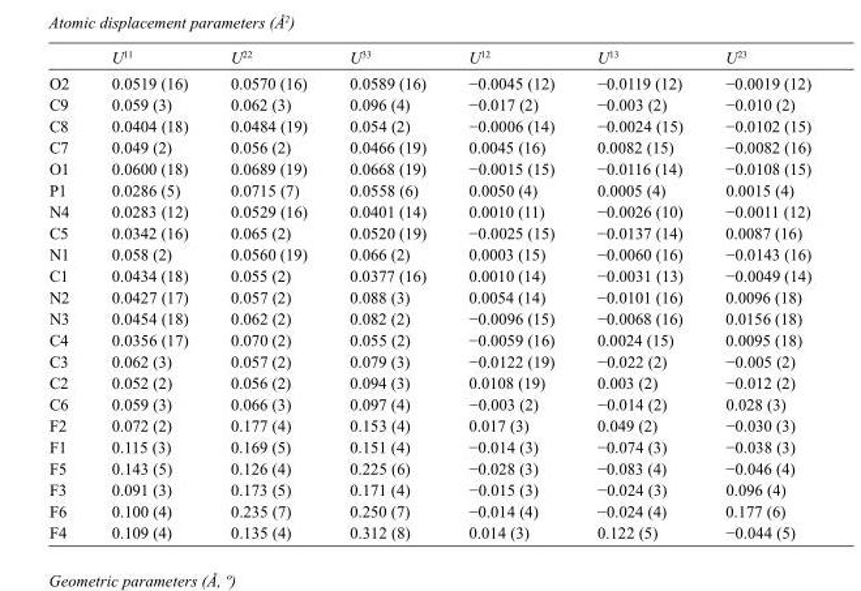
<table><thead><tr><td></td><td>U<sup>11</sup></td><td>U<sup>22</sup></td><td>U<sup>33</sup></td><td>U<sup>12</sup></td><td>U<sup>13</sup></td><td>U<sup>23</sup></td></tr></thead><tbody><tr><td>O2</td><td>0.0519 (16)</td><td>0.0570 (16)</td><td>0.0589 (16)</td><td>−0.0045 (12)</td><td>−0.0119 (12)</td><td>−0.0019 (12)</td></tr><tr><td>C9</td><td>0.059 (3)</td><td>0.062 (3)</td><td>0.096 (4)</td><td>−0.017 (2)</td><td>−0.003 (2)</td><td>−0.010 (2)</td></tr><tr><td>C8</td><td>0.0404 (18)</td><td>0.0484 (19)</td><td>0.054 (2)</td><td>−0.0006 (14)</td><td>−0.0024 (15)</td><td>−0.0102 (15)</td></tr><tr><td>C7</td><td>0.049 (2)</td><td>0.056 (2)</td><td>0.0466 (19)</td><td>0.0045 (16)</td><td>0.0082 (15)</td><td>−0.0082 (16)</td></tr><tr><td>O1</td><td>0.0600 (18)</td><td>0.0689 (19)</td><td>0.0668 (19)</td><td>−0.0015 (15)</td><td>−0.0116 (14)</td><td>−0.0108 (15)</td></tr><tr><td>P1</td><td>0.0286 (5)</td><td>0.0715 (7)</td><td>0.0558 (6)</td><td>0.0050 (4)</td><td>0.0005 (4)</td><td>0.0015 (4)</td></tr><tr><td>N4</td><td>0.0283 (12)</td><td>0.0529 (16)</td><td>0.0401 (14)</td><td>0.0010 (11)</td><td>−0.0026 (10)</td><td>−0.0011 (12)</td></tr><tr><td>C5</td><td>0.0342 (16)</td><td>0.065 (2)</td><td>0.0520 (19)</td><td>−0.0025 (15)</td><td>−0.0137 (14)</td><td>0.0087 (16)</td></tr><tr><td>N1</td><td>0.058 (2)</td><td>0.0560 (19)</td><td>0.066 (2)</td><td>0.0003 (15)</td><td>−0.0060 (16)</td><td>−0.0143 (16)</td></tr><tr><td>C1</td><td>0.0434 (18)</td><td>0.055 (2)</td><td>0.0377 (16)</td><td>0.0010 (14)</td><td>−0.0031 (13)</td><td>−0.0049 (14)</td></tr><tr><td>N2</td><td>0.0427 (17)</td><td>0.057 (2)</td><td>0.088 (3)</td><td>0.0054 (14)</td><td>−0.0101 (16)</td><td>0.0096 (18)</td></tr><tr><td>N3</td><td>0.0454 (18)</td><td>0.062 (2)</td><td>0.082 (2)</td><td>−0.0096 (15)</td><td>−0.0068 (16)</td><td>0.0156 (18)</td></tr><tr><td>C4</td><td>0.0356 (17)</td><td>0.070 (2)</td><td>0.055 (2)</td><td>−0.0059 (16)</td><td>0.0024 (15)</td><td>0.0095 (18)</td></tr><tr><td>C3</td><td>0.062 (3)</td><td>0.057 (2)</td><td>0.079 (3)</td><td>−0.0122 (19)</td><td>−0.022 (2)</td><td>−0.005 (2)</td></tr><tr><td>C2</td><td>0.052 (2)</td><td>0.056 (2)</td><td>0.094 (3)</td><td>0.0108 (19)</td><td>0.003 (2)</td><td>−0.012 (2)</td></tr><tr><td>C6</td><td>0.059 (3)</td><td>0.066 (3)</td><td>0.097 (4)</td><td>−0.003 (2)</td><td>−0.014 (2)</td><td>0.028 (3)</td></tr><tr><td>F2</td><td>0.072 (2)</td><td>0.177 (4)</td><td>0.153 (4)</td><td>0.017 (3)</td><td>0.049 (2)</td><td>−0.030 (3)</td></tr><tr><td>F1</td><td>0.115 (3)</td><td>0.169 (5)</td><td>0.151 (4)</td><td>−0.014 (3)</td><td>−0.074 (3)</td><td>−0.038 (3)</td></tr><tr><td>F5</td><td>0.143 (5)</td><td>0.126 (4)</td><td>0.225 (6)</td><td>−0.028 (3)</td><td>−0.083 (4)</td><td>−0.046 (4)</td></tr><tr><td>F3</td><td>0.091 (3)</td><td>0.173 (5)</td><td>0.171 (4)</td><td>−0.015 (3)</td><td>−0.024 (3)</td><td>0.096 (4)</td></tr><tr><td>F6</td><td>0.100 (4)</td><td>0.235 (7)</td><td>0.250 (7)</td><td>−0.014 (4)</td><td>−0.024 (4)</td><td>0.177 (6)</td></tr><tr><td>F4</td><td>0.109 (4)</td><td>0.135 (4)</td><td>0.312 (8)</td><td>0.014 (3)</td><td>0.122 (5)</td><td>−0.044 (5)</td></tr></tbody></table>